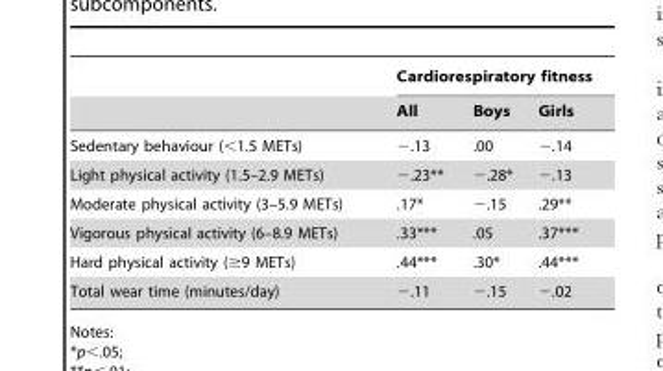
<table><thead><tr><td rowspan="2"></td><td colspan="3">Cardiorespiratory fitness</td></tr><tr><td>All</td><td>Boys</td><td>Girls</td></tr></thead><tbody><tr><td>Sedentary behaviour (&lt;1.5 METs)</td><td>−.13</td><td>.00</td><td>−.14</td></tr><tr><td>Light physical activity (1.5–2.9 METs)</td><td>−.23**</td><td>−.28*</td><td>−.13</td></tr><tr><td>Moderate physical activity (3–5.9 METs)</td><td>.17*</td><td>−.15</td><td>.29**</td></tr><tr><td>Vigorous physical activity (6–8.9 METs)</td><td>.33***</td><td>.05</td><td>.37***</td></tr><tr><td>Hard physical activity (≥9 METs)</td><td>.44***</td><td>.30*</td><td>.44***</td></tr><tr><td>Total wear time (minutes/day)</td><td>−.11</td><td>−.15</td><td>−.02</td></tr></tbody></table>